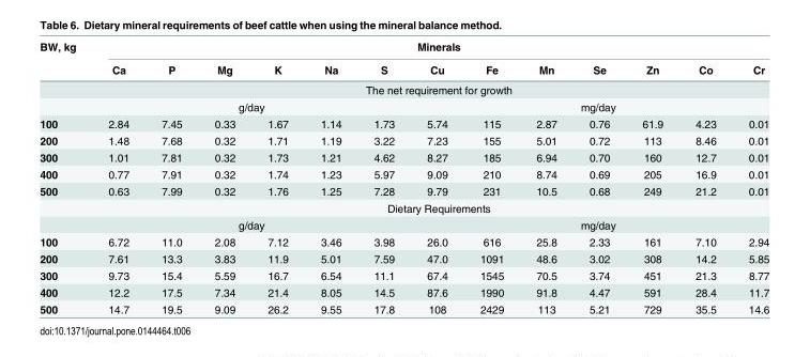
<table><thead><tr><td rowspan="2">BW, kg</td><td colspan="13">Minerals</td></tr><tr><td>Ca</td><td>P</td><td>Mg</td><td>K</td><td>Na</td><td>S</td><td>Cu</td><td>Fe</td><td>Mn</td><td>Se</td><td>Zn</td><td>Co</td><td>Cr</td></tr></thead><tbody><tr><td></td><td colspan="13">The net requirement for growth</td></tr><tr><td></td><td colspan="6">g/day</td><td colspan="7">mg/day</td></tr><tr><td>100</td><td>2.84</td><td>7.45</td><td>0.33</td><td>1.67</td><td>1.14</td><td>1.73</td><td>5.74</td><td>115</td><td>2.87</td><td>0.76</td><td>61.9</td><td>4.23</td><td>0.01</td></tr><tr><td>200</td><td>1.48</td><td>7.68</td><td>0.32</td><td>1.71</td><td>1.19</td><td>3.22</td><td>7.23</td><td>155</td><td>5.01</td><td>0.72</td><td>113</td><td>8.46</td><td>0.01</td></tr><tr><td>300</td><td>1.01</td><td>7.81</td><td>0.32</td><td>1.73</td><td>1.21</td><td>4.62</td><td>8.27</td><td>185</td><td>6.94</td><td>0.70</td><td>160</td><td>12.7</td><td>0.01</td></tr><tr><td>400</td><td>0.77</td><td>7.91</td><td>0.32</td><td>1.74</td><td>1.23</td><td>5.97</td><td>9.09</td><td>210</td><td>8.74</td><td>0.69</td><td>205</td><td>16.9</td><td>0.01</td></tr><tr><td rowspan="3">500</td><td>0.63</td><td>7.99</td><td>0.32</td><td>1.76</td><td>1.25</td><td>7.28</td><td>9.79</td><td>231</td><td>10.5</td><td>0.68</td><td>249</td><td>21.2</td><td>0.01</td></tr><tr><td colspan="13">Dietary Requirements</td></tr><tr><td colspan="6">g/day</td><td colspan="7">mg/day</td></tr><tr><td>100</td><td>6.72</td><td>11.0</td><td>2.08</td><td>7.12</td><td>3.46</td><td>3.98</td><td>26.0</td><td>616</td><td>25.8</td><td>2.33</td><td>161</td><td>7.10</td><td>2.94</td></tr><tr><td>200</td><td>7.61</td><td>13.3</td><td>3.83</td><td>11.9</td><td>5.01</td><td>7.59</td><td>47.0</td><td>1091</td><td>48.6</td><td>3.02</td><td>308</td><td>14.2</td><td>5.85</td></tr><tr><td>300</td><td>9.73</td><td>15.4</td><td>5.59</td><td>16.7</td><td>6.54</td><td>11.1</td><td>67.4</td><td>1545</td><td>70.5</td><td>3.74</td><td>451</td><td>21.3</td><td>8.77</td></tr><tr><td>400</td><td>12.2</td><td>17.5</td><td>7.34</td><td>21.4</td><td>8.05</td><td>14.5</td><td>87.6</td><td>1990</td><td>91.8</td><td>4.47</td><td>591</td><td>28.4</td><td>11.7</td></tr><tr><td>500</td><td>14.7</td><td>19.5</td><td>9.09</td><td>26.2</td><td>9.55</td><td>17.8</td><td>108</td><td>2429</td><td>113</td><td>5.21</td><td>729</td><td>35.5</td><td>14.6</td></tr></tbody></table>